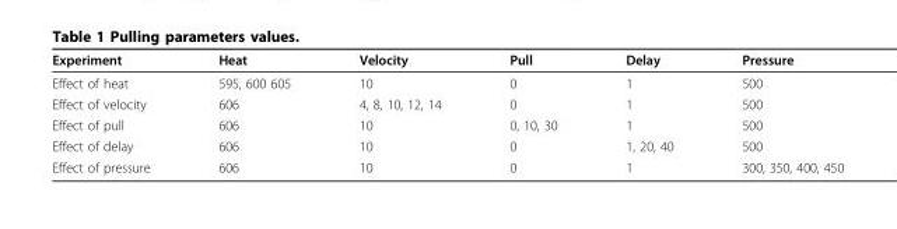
<table><thead><tr><td>Experiment</td><td>Heat</td><td>Velocity</td><td>Pull</td><td>Delay</td><td>Pressure</td></tr></thead><tbody><tr><td>Effect of heat</td><td>595, 600 605</td><td>10</td><td>0</td><td>1</td><td>500</td></tr><tr><td>Effect of velocity</td><td>606</td><td>4, 8, 10, 12, 14</td><td>0</td><td>1</td><td>500</td></tr><tr><td>Effect of pull</td><td>606</td><td>10</td><td>0, 10, 30</td><td>1</td><td>500</td></tr><tr><td>Effect of delay</td><td>606</td><td>10</td><td>0</td><td>1, 20, 40</td><td>500</td></tr><tr><td>Effect of pressure</td><td>606</td><td>10</td><td>0</td><td>1</td><td>300, 350, 400, 450</td></tr></tbody></table>